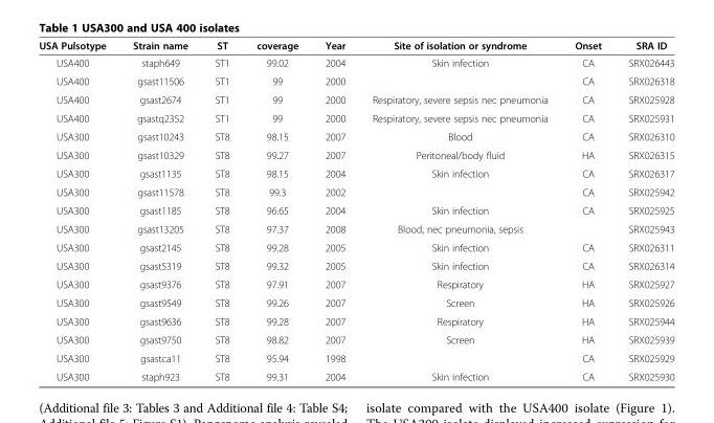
<table><thead><tr><td>USA Pulsotype</td><td>Strain name</td><td>ST</td><td>coverage</td><td>Year</td><td>Site of isolation or syndrome</td><td>Onset</td><td>SRA ID</td></tr></thead><tbody><tr><td>USA400</td><td>staph649</td><td>ST1</td><td>99.02</td><td>2004</td><td>Skin infection</td><td>CA</td><td>SRX026443</td></tr><tr><td>USA400</td><td>gsast11506</td><td>ST1</td><td>99</td><td>2000</td><td></td><td>CA</td><td>SRX026318</td></tr><tr><td>USA400</td><td>gsast2674</td><td>ST1</td><td>99</td><td>2000</td><td>Respiratory, severe sepsis nec pneumonia</td><td>CA</td><td>SRX025928</td></tr><tr><td>USA400</td><td>gsastq2352</td><td>ST1</td><td>99</td><td>2000</td><td>Respiratory, severe sepsis nec pneumonia</td><td>CA</td><td>SRX025931</td></tr><tr><td>USA300</td><td>gsast10243</td><td>ST8</td><td>98.15</td><td>2007</td><td>Blood</td><td>CA</td><td>SRX026310</td></tr><tr><td>USA300</td><td>gsast10329</td><td>ST8</td><td>99.27</td><td>2007</td><td>Peritoneal/body fluid</td><td>HA</td><td>SRX026315</td></tr><tr><td>USA300</td><td>gsast1135</td><td>ST8</td><td>98.15</td><td>2004</td><td>Skin infection</td><td>CA</td><td>SRX026317</td></tr><tr><td>USA300</td><td>gsast11578</td><td>ST8</td><td>99.3</td><td>2002</td><td></td><td>CA</td><td>SRX025942</td></tr><tr><td>USA300</td><td>gsast1185</td><td>ST8</td><td>96.65</td><td>2004</td><td>Skin infection</td><td>CA</td><td>SRX025925</td></tr><tr><td>USA300</td><td>gsast13205</td><td>ST8</td><td>97.37</td><td>2008</td><td>Blood, nec pneumonia, sepsis</td><td></td><td>SRX025943</td></tr><tr><td>USA300</td><td>gsast2145</td><td>ST8</td><td>99.28</td><td>2005</td><td>Skin infection</td><td>CA</td><td>SRX026311</td></tr><tr><td>USA300</td><td>gsast5319</td><td>ST8</td><td>99.32</td><td>2005</td><td>Skin infection</td><td>CA</td><td>SRX026314</td></tr><tr><td>USA300</td><td>gsast9376</td><td>ST8</td><td>97.91</td><td>2007</td><td>Respiratory</td><td>HA</td><td>SRX025927</td></tr><tr><td>USA300</td><td>gsast9549</td><td>ST8</td><td>99.26</td><td>2007</td><td>Screen</td><td>HA</td><td>SRX025926</td></tr><tr><td>USA300</td><td>gsast9636</td><td>ST8</td><td>99.28</td><td>2007</td><td>Respiratory</td><td>HA</td><td>SRX025944</td></tr><tr><td>USA300</td><td>gsast9750</td><td>ST8</td><td>98.82</td><td>2007</td><td>Screen</td><td>HA</td><td>SRX025939</td></tr><tr><td>USA300</td><td>gsastca11</td><td>ST8</td><td>95.94</td><td>1998</td><td></td><td>CA</td><td>SRX025929</td></tr><tr><td>USA300</td><td>staph923</td><td>ST8</td><td>99.31</td><td>2004</td><td>Skin infection</td><td>CA</td><td>SRX025930</td></tr></tbody></table>